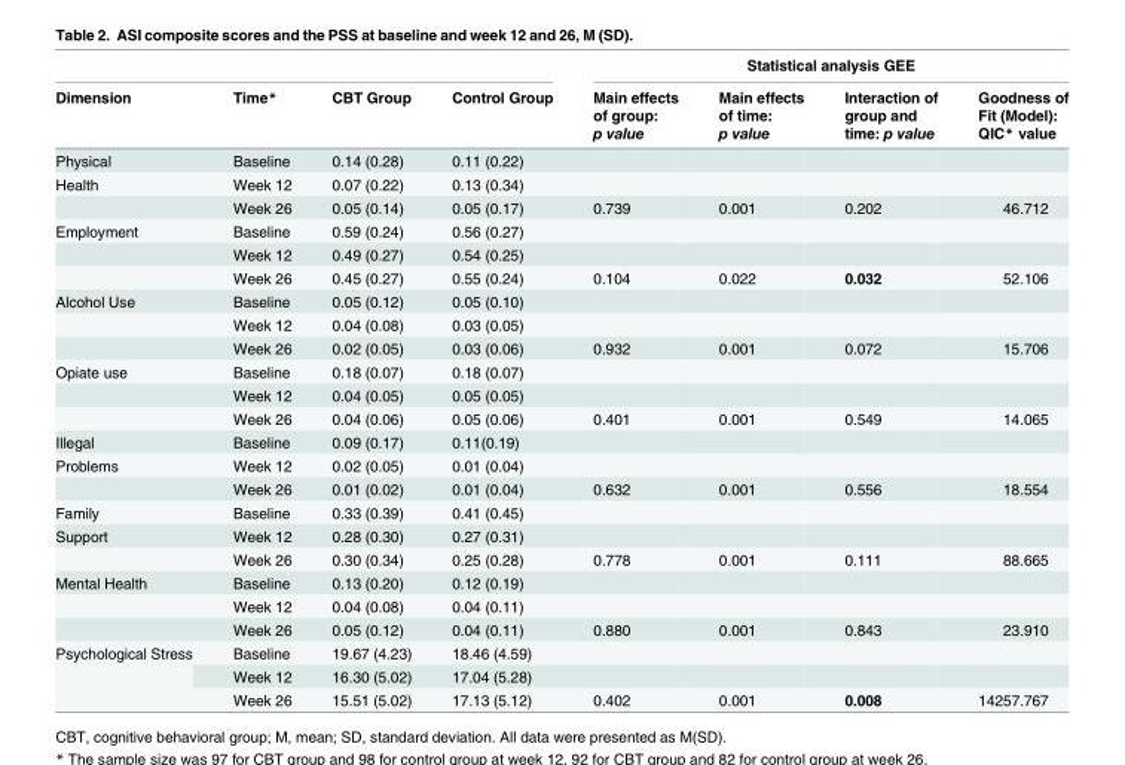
<table><thead><tr><td rowspan="2">Dimension</td><td rowspan="2">Time*</td><td rowspan="2">CBT Group</td><td rowspan="2">Control Group</td><td colspan="4">Statistical analysis GEE</td></tr><tr><td>Main effects of group: p value</td><td>Main effects of time: p value</td><td>Interaction of group and time: p value</td><td>Goodness of Fit (Model): QIC* value</td></tr></thead><tbody><tr><td>Physical</td><td>Baseline</td><td>0.14 (0.28)</td><td>0.11 (0.22)</td><td></td><td></td><td></td><td></td></tr><tr><td rowspan="2">Health</td><td>Week 12</td><td>0.07 (0.22)</td><td>0.13 (0.34)</td><td></td><td></td><td></td><td></td></tr><tr><td>Week 26</td><td>0.05 (0.14)</td><td>0.05 (0.17)</td><td>0.739</td><td>0.001</td><td>0.202</td><td>46.712</td></tr><tr><td rowspan="3">Employment</td><td>Baseline</td><td>0.59 (0.24)</td><td>0.56 (0.27)</td><td></td><td></td><td></td><td></td></tr><tr><td>Week 12</td><td>0.49 (0.27)</td><td>0.54 (0.25)</td><td></td><td></td><td></td><td></td></tr><tr><td>Week 26</td><td>0.45 (0.27)</td><td>0.55 (0.24)</td><td>0.104</td><td>0.022</td><td>0.032</td><td>52.106</td></tr><tr><td rowspan="3">Alcohol Use</td><td>Baseline</td><td>0.05 (0.12)</td><td>0.05 (0.10)</td><td></td><td></td><td></td><td></td></tr><tr><td>Week 12</td><td>0.04 (0.08)</td><td>0.03 (0.05)</td><td></td><td></td><td></td><td></td></tr><tr><td>Week 26</td><td>0.02 (0.05)</td><td>0.03 (0.06)</td><td>0.932</td><td>0.001</td><td>0.072</td><td>15.706</td></tr><tr><td rowspan="3">Opiate use</td><td>Baseline</td><td>0.18 (0.07)</td><td>0.18 (0.07)</td><td></td><td></td><td></td><td></td></tr><tr><td>Week 12</td><td>0.04 (0.05)</td><td>0.05 (0.05)</td><td></td><td></td><td></td><td></td></tr><tr><td>Week 26</td><td>0.04 (0.06)</td><td>0.05 (0.06)</td><td>0.401</td><td>0.001</td><td>0.549</td><td>14.065</td></tr><tr><td>Illegal</td><td>Baseline</td><td>0.09 (0.17)</td><td>0.11(0.19)</td><td></td><td></td><td></td><td></td></tr><tr><td rowspan="2">Problems</td><td>Week 12</td><td>0.02 (0.05)</td><td>0.01 (0.04)</td><td></td><td></td><td></td><td></td></tr><tr><td>Week 26</td><td>0.01 (0.02)</td><td>0.01 (0.04)</td><td>0.632</td><td>0.001</td><td>0.556</td><td>18.554</td></tr><tr><td>Family</td><td>Baseline</td><td>0.33 (0.39)</td><td>0.41 (0.45)</td><td></td><td></td><td></td><td></td></tr><tr><td rowspan="2">Support</td><td>Week 12</td><td>0.28 (0.30)</td><td>0.27 (0.31)</td><td></td><td></td><td></td><td></td></tr><tr><td>Week 26</td><td>0.30 (0.34)</td><td>0.25 (0.28)</td><td>0.778</td><td>0.001</td><td>0.111</td><td>88.665</td></tr><tr><td rowspan="3">Mental Health</td><td>Baseline</td><td>0.13 (0.20)</td><td>0.12 (0.19)</td><td></td><td></td><td></td><td></td></tr><tr><td>Week 12</td><td>0.04 (0.08)</td><td>0.04 (0.11)</td><td></td><td></td><td></td><td></td></tr><tr><td>Week 26</td><td>0.05 (0.12)</td><td>0.04 (0.11)</td><td>0.880</td><td>0.001</td><td>0.843</td><td>23.910</td></tr><tr><td rowspan="3">Psychological Stress</td><td>Baseline</td><td>19.67 (4.23)</td><td>18.46 (4.59)</td><td></td><td></td><td></td><td></td></tr><tr><td>Week 12</td><td>16.30 (5.02)</td><td>17.04 (5.28)</td><td></td><td></td><td></td><td></td></tr><tr><td>Week 26</td><td>15.51 (5.02)</td><td>17.13 (5.12)</td><td>0.402</td><td>0.001</td><td>0.008</td><td>14257.767</td></tr></tbody></table>